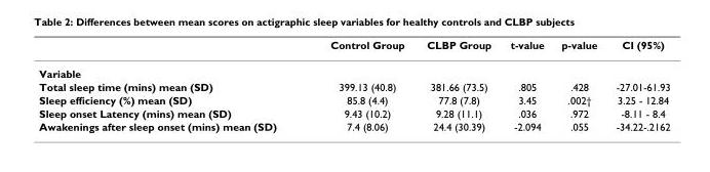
<table><thead><tr><td></td><td>Control Group</td><td>CLBP Group</td><td>t-value</td><td>p-value</td><td>CI (95%)</td></tr></thead><tbody><tr><td colspan="6">Variable</td></tr><tr><td>Total sleep time (mins) mean (SD)</td><td>399.13 (40.8)</td><td>381.66 (73.5)</td><td>.805</td><td>.428</td><td>-27.01-61.93</td></tr><tr><td>Sleep efficiency (%) mean (SD)</td><td>85.8 (4.4)</td><td>77.8 (7.8)</td><td>3.45</td><td>.002†</td><td>3.25 - 12.84</td></tr><tr><td>Sleep onset Latency (mins) mean (SD)</td><td>9.43 (10.2)</td><td>9.28 (11.1)</td><td>.036</td><td>.972</td><td>-8.11 - 8.4</td></tr><tr><td>Awakenings after sleep onset (mins) mean (SD)</td><td>7.4 (8.06)</td><td>24.4 (30.39)</td><td>-2.094</td><td>.055</td><td>-34.22-.2162</td></tr></tbody></table>